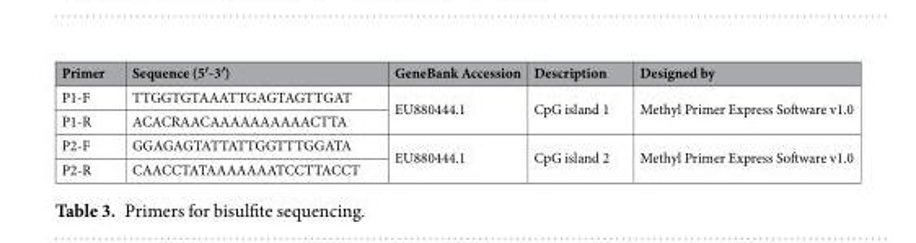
<table><thead><tr><td>Primer</td><td>Sequence (5′-3′)</td><td>GeneBank Accession</td><td>Description</td><td>Designed by</td></tr></thead><tbody><tr><td>P1-F</td><td>TTGGTGTAAATTGAGTAGTTGAT</td><td rowspan="2">EU880444.1</td><td rowspan="2">CpG island 1</td><td rowspan="2">Methyl Primer Express Software v1.0</td></tr><tr><td>P1-R</td><td>ACACRAACAAAAAAAAAACTTA</td></tr><tr><td>P2-F</td><td>GGAGAGTATTATTGGTTTGGATA</td><td rowspan="2">EU880444.1</td><td rowspan="2">CpG island 2</td><td rowspan="2">Methyl Primer Express Software v1.0</td></tr><tr><td>P2-R</td><td>CAACCTATAAAAAAATCCTTACCT</td></tr></tbody></table>